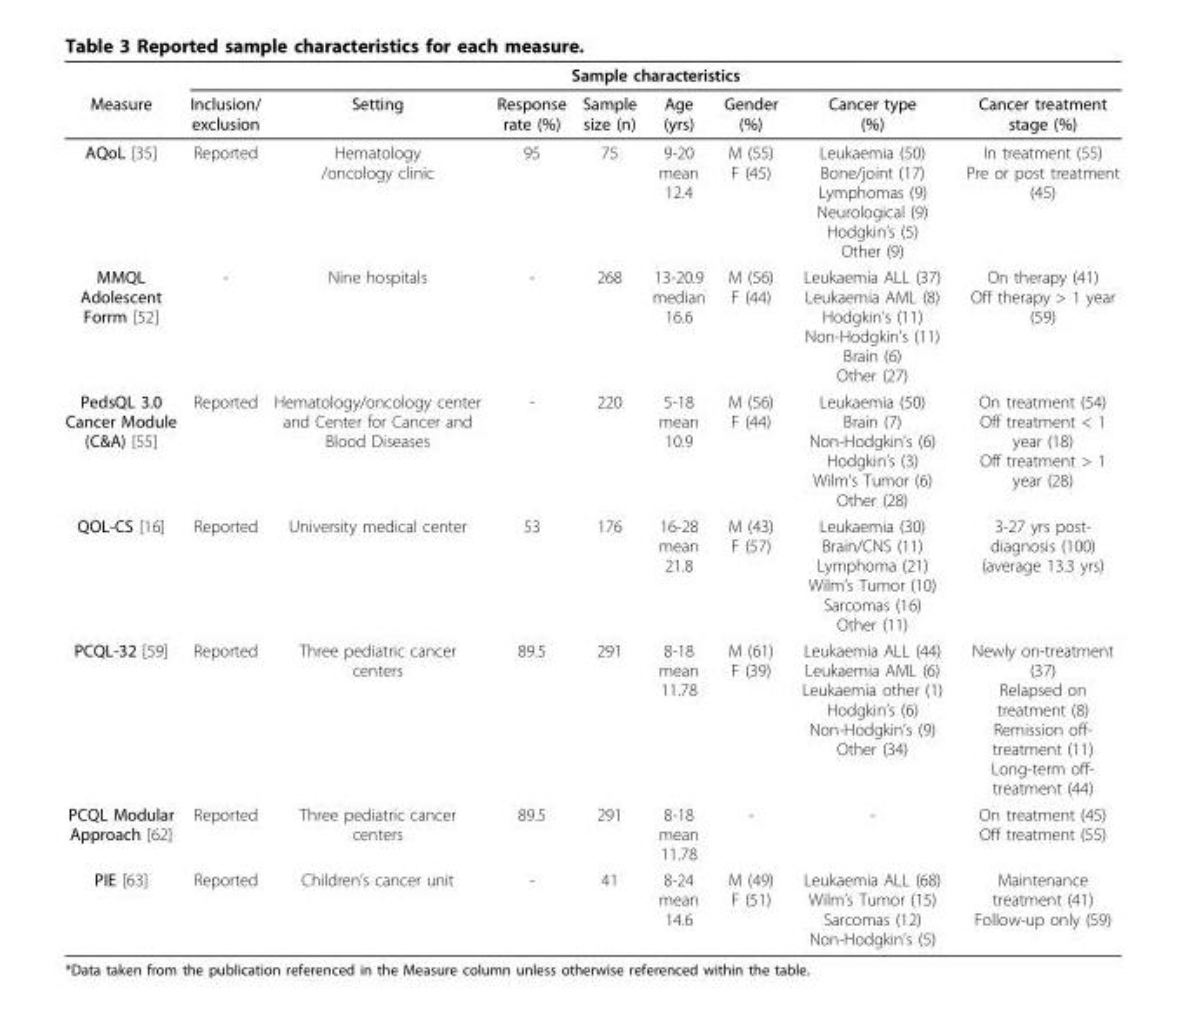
<table><thead><tr><td rowspan="2">Measure</td><td colspan="8">Sample characteristics</td></tr><tr><td>Inclusion/ exclusion</td><td>Setting</td><td>Response rate (%)</td><td>Sample size (n)</td><td>Age (yrs)</td><td>Gender (%)</td><td>Cancer type (%)</td><td>Cancer treatment stage (%)</td></tr></thead><tbody><tr><td>AQoL [35]</td><td>Reported</td><td>Hematology /oncology clinic</td><td>95</td><td>75</td><td>9-20 mean 12.4</td><td>M (55) F (45)</td><td>Leukaemia (50) Bone/joint (17) Lymphomas (9) Neurological (9) Hodgkin’s (5) Other (9)</td><td>In treatment (55) Pre or post treatment (45)</td></tr><tr><td>MMQL Adolescent Forrm [52]</td><td>-</td><td>Nine hospitals</td><td>-</td><td>268</td><td>13-20.9 median 16.6</td><td>M (56) F (44)</td><td>Leukaemia ALL (37) Leukaemia AML (8) Hodgkin’s (11) Non-Hodgkin’s (11) Brain (6) Other (27)</td><td>On therapy (41) Off therapy &gt; 1 year (59)</td></tr><tr><td>PedsQL 3.0 Cancer Module (C&amp;A) [55]</td><td>Reported</td><td>Hematology/oncology center and Center for Cancer and Blood Diseases</td><td>-</td><td>220</td><td>5-18 mean 10.9</td><td>M (56) F (44)</td><td>Leukaemia (50) Brain (7) Non-Hodgkin’s (6) Hodgkin’s (3) Wilm’s Tumor (6) Other (28)</td><td>On treatment (54) Off treatment &lt; 1 year (18) Off treatment &gt; 1 year (28)</td></tr><tr><td>QOL-CS [16]</td><td>Reported</td><td>University medical center</td><td>53</td><td>176</td><td>16-28 mean 21.8</td><td>M (43) F (57)</td><td>Leukaemia (30) Brain/CNS (11) Lymphoma (21) Wilm’s Tumor (10) Sarcomas (16) Other (11)</td><td>3-27 yrs post- diagnosis (100) (average 13.3 yrs)</td></tr><tr><td>PCQL-32 [59]</td><td>Reported</td><td>Three pediatric cancer centers</td><td>89.5</td><td>291</td><td>8-18 mean 11.78</td><td>M (61) F (39)</td><td>Leukaemia ALL (44) Leukaemia AML (6) Leukaemia other (1) Hodgkin’s (6) Non-Hodgkin’s (9) Other (34)</td><td>Newly on-treatment (37) Relapsed on treatment (8) Remission off- treatment (11) Long-term off- treatment (44)</td></tr><tr><td>PCQL Modular Approach [62]</td><td>Reported</td><td>Three pediatric cancer centers</td><td>89.5</td><td>291</td><td>8-18 mean 11.78</td><td>-</td><td>-</td><td>On treatment (45) Off treatment (55)</td></tr><tr><td>PIE [63]</td><td>Reported</td><td>Children’s cancer unit</td><td>-</td><td>41</td><td>8-24 mean 14.6</td><td>M (49) F (51)</td><td>Leukaemia ALL (68) Wilm’s Tumor (15) Sarcomas (12) Non-Hodgkin’s (5)</td><td>Maintenance treatment (41) Follow-up only (59)</td></tr></tbody></table>